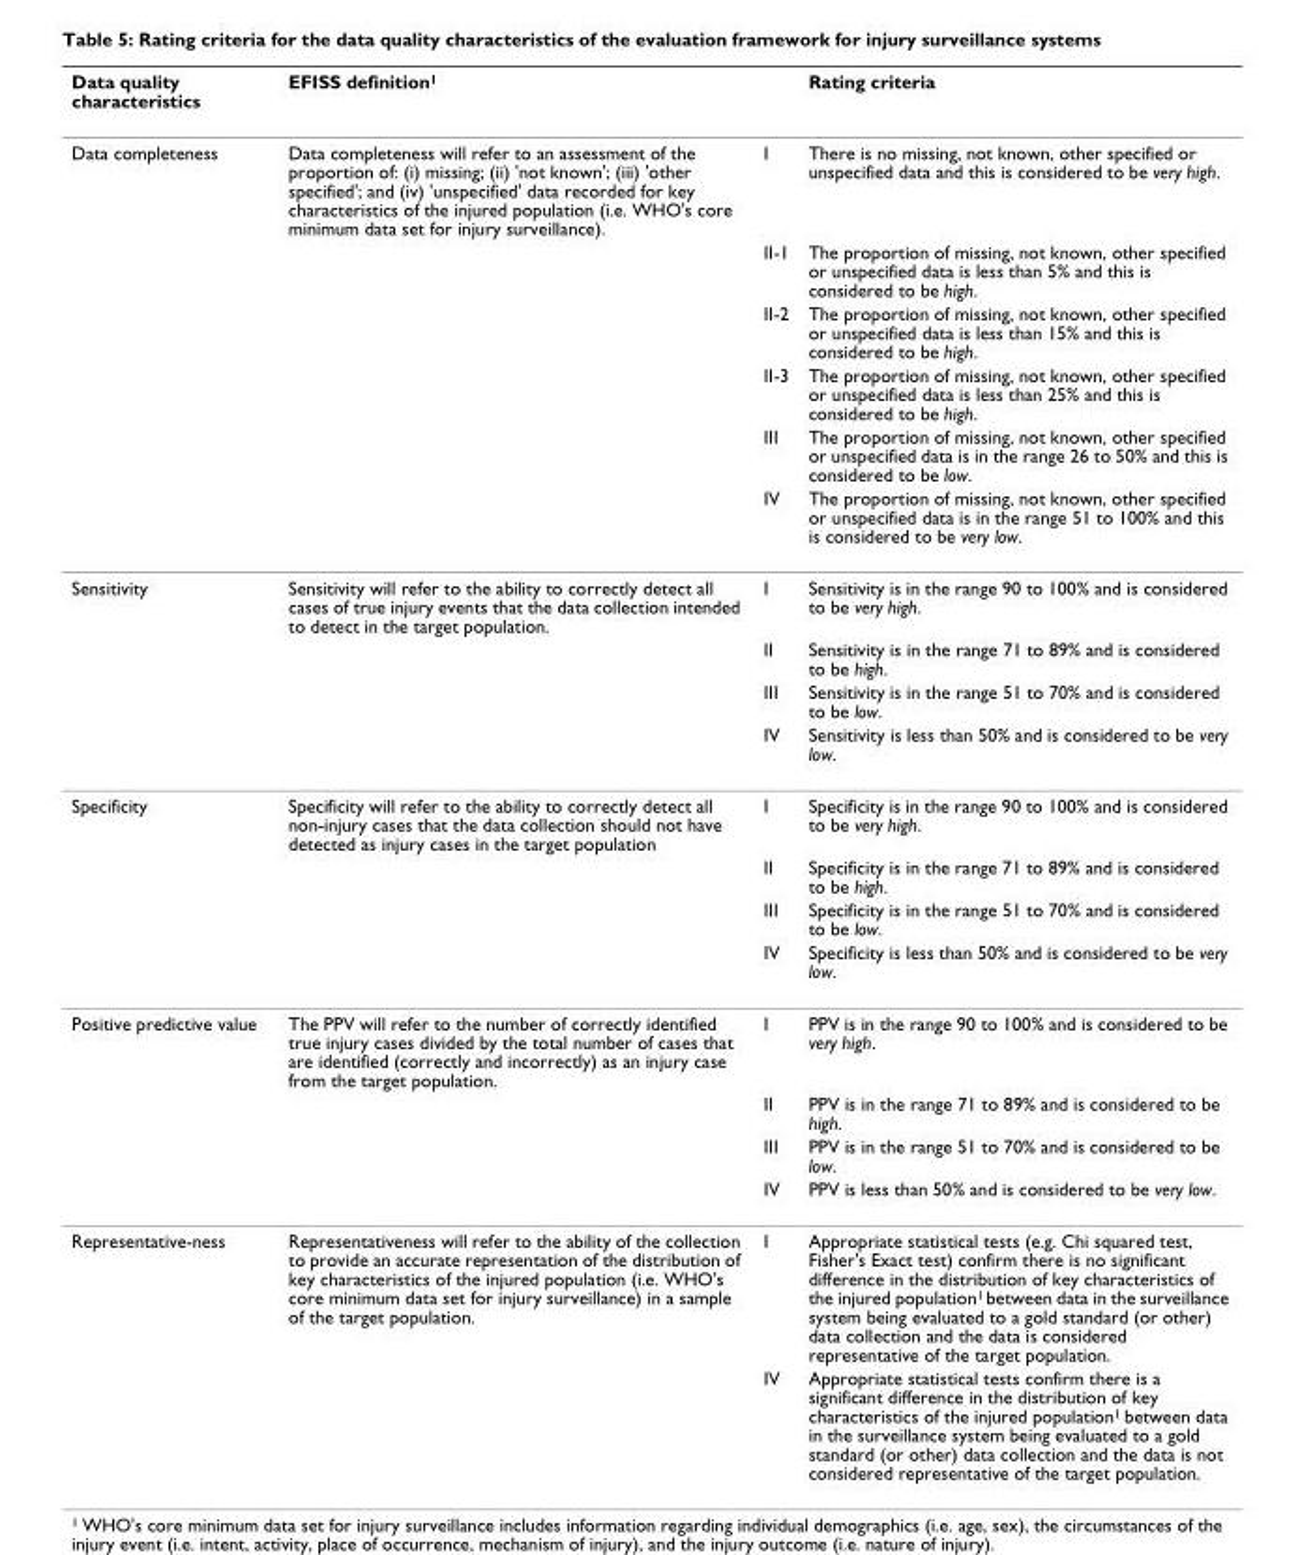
<table><thead><tr><td>Data quality characteristics</td><td>EFISS definition<sup>1</sup></td><td></td><td>Rating criteria</td></tr></thead><tbody><tr><td rowspan="6">Data completeness</td><td>Data completeness will refer to an assessment of the proportion of: (i) missing; (ii) &#x27;not known&#x27;; (iii) &#x27;other specified&#x27;; and (iv) &#x27;unspecified&#x27; data recorded for key characteristics of the injured population (i.e. WHO&#x27;s core minimum data set for injury surveillance).</td><td>I</td><td>There is no missing, not known, other specified or unspecified data and this is considered to be very high.</td></tr><tr><td></td><td>II-1</td><td>The proportion of missing, not known, other specified or unspecified data is less than 5% and this is considered to be high.</td></tr><tr><td></td><td>II-2</td><td>The proportion of missing, not known, other specified or unspecified data is less than 15% and this is considered to be high.</td></tr><tr><td></td><td>II-3</td><td>The proportion of missing, not known, other specified or unspecified data is less than 25% and this is considered to be high.</td></tr><tr><td></td><td>III</td><td>The proportion of missing, not known, other specified or unspecified data is in the range 26 to 50% and this is considered to be low.</td></tr><tr><td></td><td>IV</td><td>The proportion of missing, not known, other specified or unspecified data is in the range 51 to 100% and this is considered to be very low.</td></tr><tr><td rowspan="4">Sensitivity</td><td>Sensitivity will refer to the ability to correctly detect all cases of true injury events that the data collection intended to detect in the target population.</td><td>I</td><td>Sensitivity is in the range 90 to 100% and is considered to be very high.</td></tr><tr><td></td><td>II</td><td>Sensitivity is in the range 71 to 89% and is considered to be high.</td></tr><tr><td></td><td>III</td><td>Sensitivity is in the range 51 to 70% and is considered to be low.</td></tr><tr><td></td><td>IV</td><td>Sensitivity is less than 50% and is considered to be very low.</td></tr><tr><td rowspan="4">Specificity</td><td>Specificity will refer to the ability to correctly detect all non-injury cases that the data collection should not have detected as injury cases in the target population</td><td>I</td><td>Specificity is in the range 90 to 100% and is considered to be very high.</td></tr><tr><td></td><td>II</td><td>Specificity is in the range 71 to 89% and is considered to be high.</td></tr><tr><td></td><td>III</td><td>Specificity is in the range 51 to 70% and is considered to be low.</td></tr><tr><td></td><td>IV</td><td>Specificity is less than 50% and is considered to be very low.</td></tr><tr><td rowspan="4">Positive predictive value</td><td>The PPV will refer to the number of correctly identified true injury cases divided by the total number of cases that are identified (correctly and incorrectly) as an injury case from the target population.</td><td>I</td><td>PPV is in the range 90 to 100% and is considered to be very high.</td></tr><tr><td></td><td>II</td><td>PPV is in the range 71 to 89% and is considered to be high.</td></tr><tr><td></td><td>III</td><td>PPV is in the range 51 to 70% and is considered to be low.</td></tr><tr><td></td><td>IV</td><td>PPV is less than 50% and is considered to be very low.</td></tr><tr><td rowspan="2">Representative-ness</td><td>Representativeness will refer to the ability of the collection to provide an accurate representation of the distribution of key characteristics of the injured population (i.e. WHO&#x27;s core minimum data set for injury surveillance) in a sample of the target population.</td><td>I</td><td>Appropriate statistical tests (e.g. Chi squared test, Fisher&#x27;s Exact test) confirm there is no significant difference in the distribution of key characteristics of the injured population<sup>1</sup> between data in the surveillance system being evaluated to a gold standard (or other) data collection and the data is considered representative of the target population.</td></tr><tr><td></td><td>IV</td><td>Appropriate statistical tests confirm there is a significant difference in the distribution of key characteristics of the injured population<sup>1</sup> between data in the surveillance system being evaluated to a gold standard (or other) data collection and the data is not considered representative of the target population.</td></tr></tbody></table>